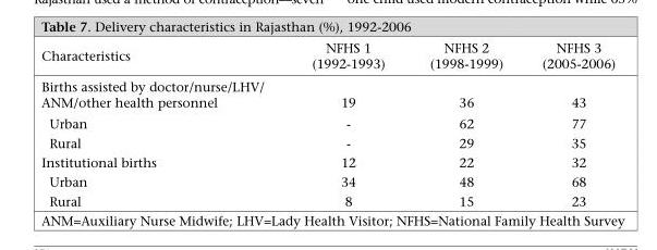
<table><thead><tr><td>Characteristics</td><td>NFHS 1 (1992-1993)</td><td>NFHS 2 (1998-1999)</td><td>NFHS 3 (2005-2006)</td></tr></thead><tbody><tr><td>Births assisted by doctor/nurse/LHV/ ANM/other health personnel</td><td>19</td><td>36</td><td>43</td></tr><tr><td>Urban</td><td>-</td><td>62</td><td>77</td></tr><tr><td>Rural</td><td>-</td><td>29</td><td>35</td></tr><tr><td>Institutional births</td><td>12</td><td>22</td><td>32</td></tr><tr><td>Urban</td><td>34</td><td>48</td><td>68</td></tr><tr><td>Rural</td><td>8</td><td>15</td><td>23</td></tr></tbody></table>